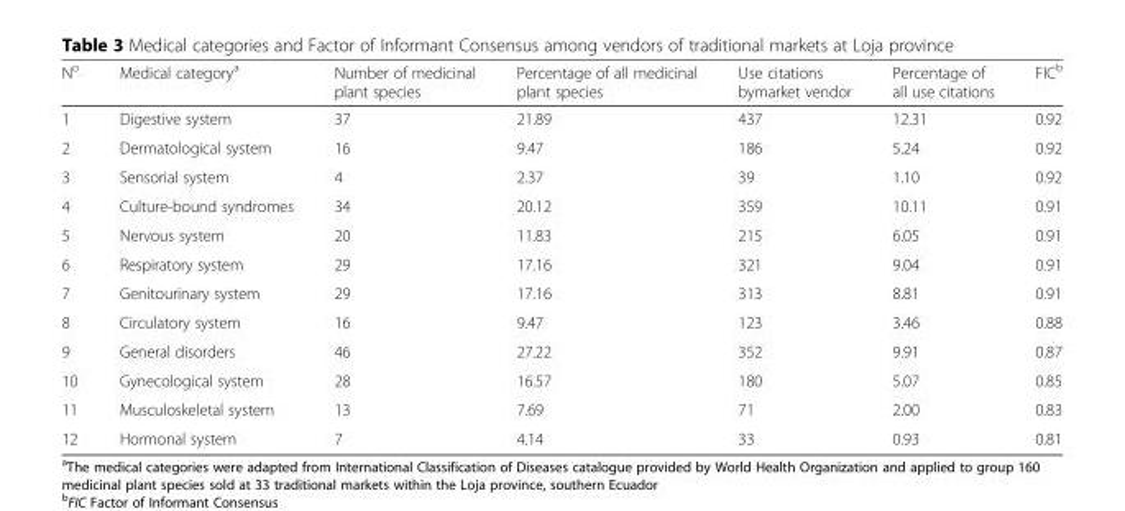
<table><thead><tr><td>N<sup>o</sup></td><td>Medical category<sup>a</sup></td><td>Number of medicinal plant species</td><td>Percentage of all medicinal plant species</td><td>Use citations bymarket vendor</td><td>Percentage of all use citations</td><td>FIC<sup>b</sup></td></tr></thead><tbody><tr><td>1</td><td>Digestive system</td><td>37</td><td>21.89</td><td>437</td><td>12.31</td><td>0.92</td></tr><tr><td>2</td><td>Dermatological system</td><td>16</td><td>9.47</td><td>186</td><td>5.24</td><td>0.92</td></tr><tr><td>3</td><td>Sensorial system</td><td>4</td><td>2.37</td><td>39</td><td>1.10</td><td>0.92</td></tr><tr><td>4</td><td>Culture-bound syndromes</td><td>34</td><td>20.12</td><td>359</td><td>10.11</td><td>0.91</td></tr><tr><td>5</td><td>Nervous system</td><td>20</td><td>11.83</td><td>215</td><td>6.05</td><td>0.91</td></tr><tr><td>6</td><td>Respiratory system</td><td>29</td><td>17.16</td><td>321</td><td>9.04</td><td>0.91</td></tr><tr><td>7</td><td>Genitourinary system</td><td>29</td><td>17.16</td><td>313</td><td>8.81</td><td>0.91</td></tr><tr><td>8</td><td>Circulatory system</td><td>16</td><td>9.47</td><td>123</td><td>3.46</td><td>0.88</td></tr><tr><td>9</td><td>General disorders</td><td>46</td><td>27.22</td><td>352</td><td>9.91</td><td>0.87</td></tr><tr><td>10</td><td>Gynecological system</td><td>28</td><td>16.57</td><td>180</td><td>5.07</td><td>0.85</td></tr><tr><td>11</td><td>Musculoskeletal system</td><td>13</td><td>7.69</td><td>71</td><td>2.00</td><td>0.83</td></tr><tr><td>12</td><td>Hormonal system</td><td>7</td><td>4.14</td><td>33</td><td>0.93</td><td>0.81</td></tr></tbody></table>